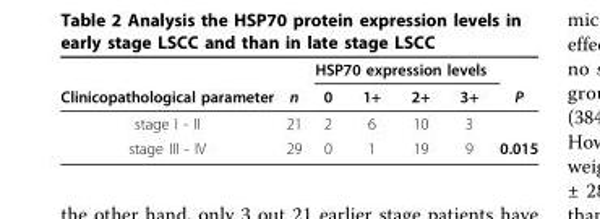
<table><thead><tr><td rowspan="2">Clinicopathological parameter</td><td rowspan="2">n</td><td colspan="4">HSP70 expression levels</td><td rowspan="2">P</td></tr><tr><td>0</td><td>1+</td><td>2+</td><td>3+</td></tr></thead><tbody><tr><td>stage I - II</td><td>21</td><td>2</td><td>6</td><td>10</td><td>3</td><td></td></tr><tr><td>stage III - IV</td><td>29</td><td>0</td><td>1</td><td>19</td><td>9</td><td>0.015</td></tr></tbody></table>